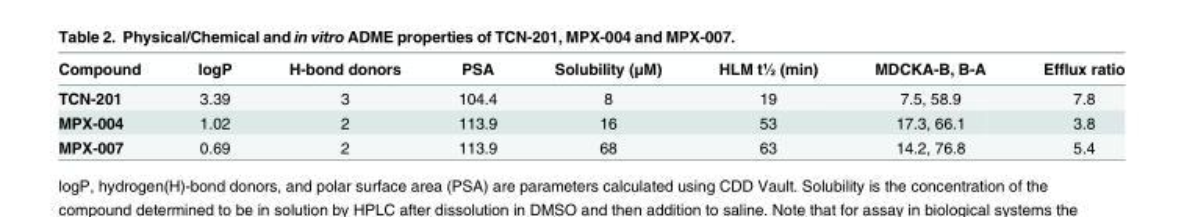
<table><thead><tr><td>Compound</td><td>logP</td><td>H-bond donors</td><td>PSA</td><td>Solubility (μM)</td><td>HLM t½ (min)</td><td>MDCKA-B, B-A</td><td>Efflux ratio</td></tr></thead><tbody><tr><td>TCN-201</td><td>3.39</td><td>3</td><td>104.4</td><td>8</td><td>19</td><td>7.5, 58.9</td><td>7.8</td></tr><tr><td>MPX-004</td><td>1.02</td><td>2</td><td>113.9</td><td>16</td><td>53</td><td>17.3, 66.1</td><td>3.8</td></tr><tr><td>MPX-007</td><td>0.69</td><td>2</td><td>113.9</td><td>68</td><td>63</td><td>14.2, 76.8</td><td>5.4</td></tr></tbody></table>